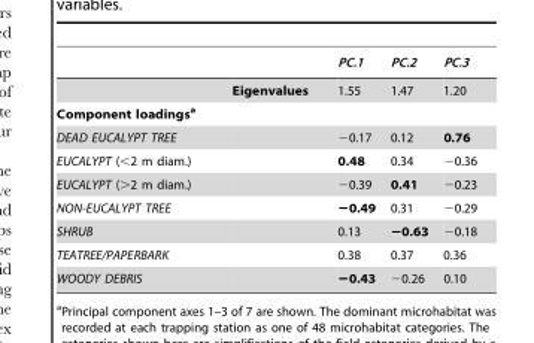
<table><thead><tr><td></td><td></td><td>PC.1</td><td>PC.2</td><td>PC.3</td></tr></thead><tbody><tr><td></td><td>Eigenvalues</td><td>1.55</td><td>1.47</td><td>1.20</td></tr><tr><td colspan="5">Component loadingsa</td></tr><tr><td>DEAD EUCALYPT TREE</td><td></td><td>−0.17</td><td>0.12</td><td>0.76</td></tr><tr><td>EUCALYPT (&lt;2 m diam.)</td><td></td><td>0.48</td><td>0.34</td><td>−0.36</td></tr><tr><td>EUCALYPT (&gt;2 m diam.)</td><td></td><td>−0.39</td><td>0.41</td><td>−0.23</td></tr><tr><td>NON-EUCALYPT TREE</td><td></td><td>−0.49</td><td>0.31</td><td>−0.29</td></tr><tr><td>SHRUB</td><td></td><td>0.13</td><td>−0.63</td><td>−0.18</td></tr><tr><td>TEATREE/PAPERBARK</td><td></td><td>0.38</td><td>0.37</td><td>0.36</td></tr><tr><td>WOODY DEBRIS</td><td></td><td>−0.43</td><td>−0.26</td><td>0.10</td></tr></tbody></table>